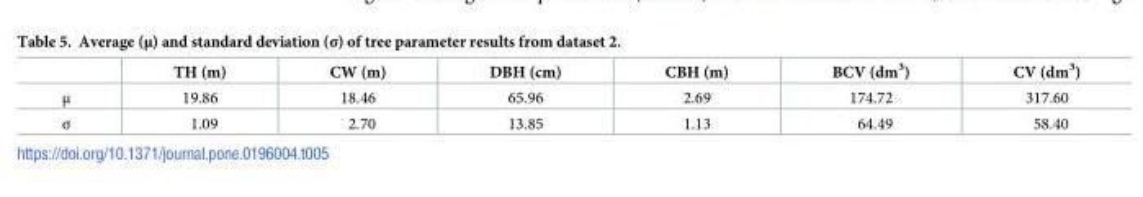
<table><thead><tr><td></td><td>TH (m)</td><td>CW (m)</td><td>DBH (cm)</td><td>CBH (m)</td><td>BCV (dm<sup>3</sup>)</td><td>CV (dm<sup>3</sup>)</td></tr></thead><tbody><tr><td>μ</td><td>19.86</td><td>18.46</td><td>65.96</td><td>2.69</td><td>174.72</td><td>317.60</td></tr><tr><td>σ</td><td>1.09</td><td>2.70</td><td>13.85</td><td>1.13</td><td>64.49</td><td>58.40</td></tr></tbody></table>